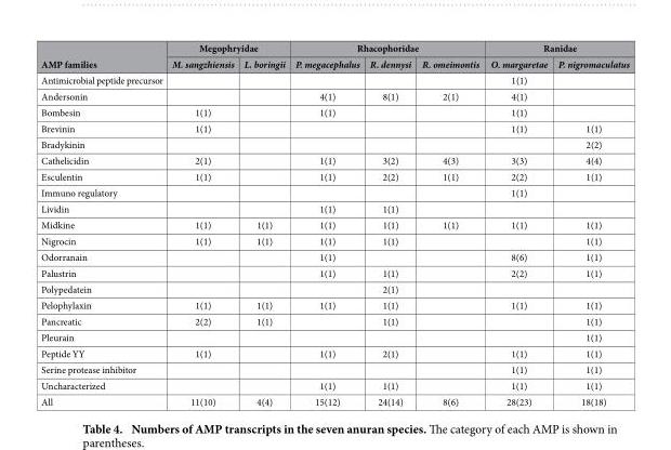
<table><thead><tr><td rowspan="2">AMP families</td><td colspan="2">Megophryidae</td><td colspan="3">Rhacophoridae</td><td colspan="2">Ranidae</td></tr><tr><td>M. sangzhiensis</td><td>L. boringii</td><td>P. megacephalus</td><td>R. dennysi</td><td>R. omeimontis</td><td>O. margaretae</td><td>P. nigromaculatus</td></tr></thead><tbody><tr><td>Antimicrobial peptide precursor</td><td></td><td></td><td></td><td></td><td></td><td>1(1)</td><td></td></tr><tr><td>Andersonin</td><td></td><td></td><td>4(1)</td><td>8(1)</td><td>2(1)</td><td>4(1)</td><td></td></tr><tr><td>Bombesin</td><td>1(1)</td><td></td><td>1(1)</td><td></td><td></td><td>1(1)</td><td></td></tr><tr><td>Brevinin</td><td>1(1)</td><td></td><td></td><td></td><td></td><td>1(1)</td><td>1(1)</td></tr><tr><td>Bradykinin</td><td></td><td></td><td></td><td></td><td></td><td></td><td>2(2)</td></tr><tr><td>Cathelicidin</td><td>2(1)</td><td></td><td>1(1)</td><td>3(2)</td><td>4(3)</td><td>3(3)</td><td>4(4)</td></tr><tr><td>Esculentin</td><td>1(1)</td><td></td><td>1(1)</td><td>2(2)</td><td>1(1)</td><td>2(2)</td><td>1(1)</td></tr><tr><td>Immuno regulatory</td><td></td><td></td><td></td><td></td><td></td><td>1(1)</td><td></td></tr><tr><td>Lividin</td><td></td><td></td><td>1(1)</td><td>1(1)</td><td></td><td></td><td></td></tr><tr><td>Midkine</td><td>1(1)</td><td>1(1)</td><td>1(1)</td><td>1(1)</td><td>1(1)</td><td>1(1)</td><td>1(1)</td></tr><tr><td>Nigrocin</td><td>1(1)</td><td>1(1)</td><td>1(1)</td><td>1(1)</td><td></td><td></td><td>1(1)</td></tr><tr><td>Odorranain</td><td></td><td></td><td>1(1)</td><td></td><td></td><td>8(6)</td><td>1(1)</td></tr><tr><td>Palustrin</td><td></td><td></td><td>1(1)</td><td>1(1)</td><td></td><td>2(2)</td><td>1(1)</td></tr><tr><td>Polypedatein</td><td></td><td></td><td></td><td>2(1)</td><td></td><td></td><td></td></tr><tr><td>Pelophylaxin</td><td>1(1)</td><td>1(1)</td><td>1(1)</td><td>1(1)</td><td></td><td>1(1)</td><td>1(1)</td></tr><tr><td>Pancreatic</td><td>2(2)</td><td>1(1)</td><td></td><td>1(1)</td><td></td><td></td><td>1(1)</td></tr><tr><td>Pleurain</td><td></td><td></td><td></td><td></td><td></td><td></td><td>1(1)</td></tr><tr><td>Peptide YY</td><td>1(1)</td><td></td><td>1(1)</td><td>2(1)</td><td></td><td>1(1)</td><td>1(1)</td></tr><tr><td>Serine protease inhibitor</td><td></td><td></td><td></td><td></td><td></td><td>1(1)</td><td>1(1)</td></tr><tr><td>Uncharacterized</td><td></td><td></td><td>1(1)</td><td>1(1)</td><td></td><td>1(1)</td><td>1(1)</td></tr><tr><td>All</td><td>11(10)</td><td>4(4)</td><td>15(12)</td><td>24(14)</td><td>8(6)</td><td>28(23)</td><td>18(18)</td></tr></tbody></table>